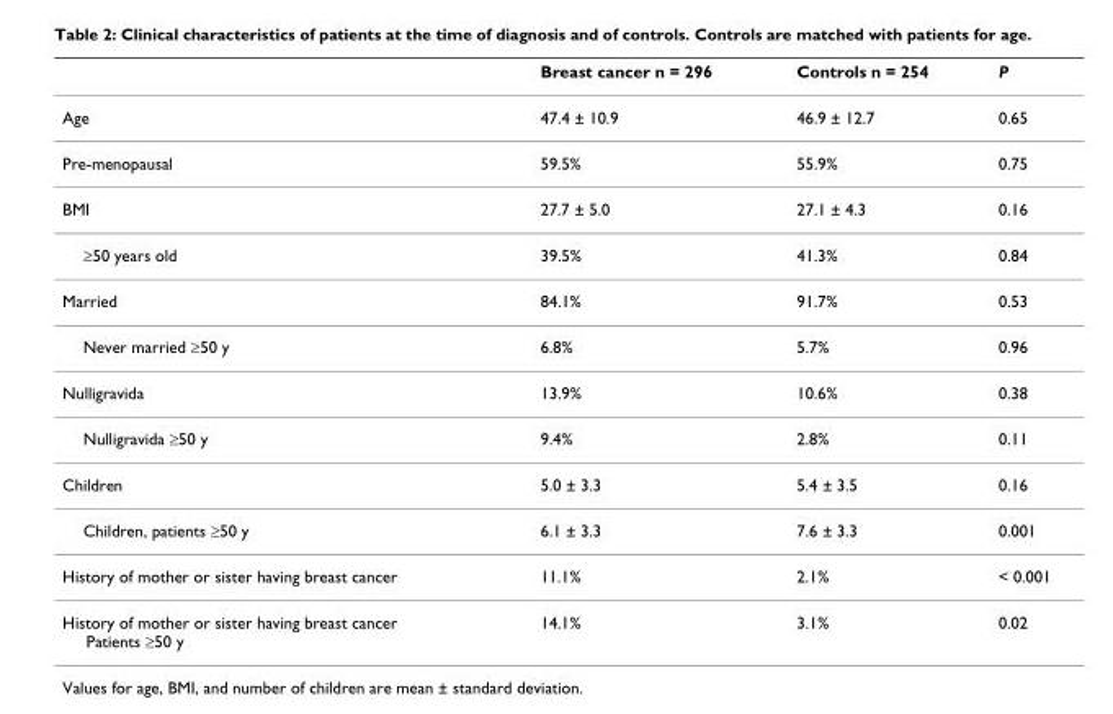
<table><thead><tr><td></td><td>Breast cancer n = 296</td><td>Controls n = 254</td><td>P</td></tr></thead><tbody><tr><td>Age</td><td>47.4 ± 10.9</td><td>46.9 ± 12.7</td><td>0.65</td></tr><tr><td>Pre-menopausal</td><td>59.5%</td><td>55.9%</td><td>0.75</td></tr><tr><td>BMI</td><td>27.7 ± 5.0</td><td>27.1 ± 4.3</td><td>0.16</td></tr><tr><td>≥50 years old</td><td>39.5%</td><td>41.3%</td><td>0.84</td></tr><tr><td>Married</td><td>84.1%</td><td>91.7%</td><td>0.53</td></tr><tr><td>Never married ≥50 y</td><td>6.8%</td><td>5.7%</td><td>0.96</td></tr><tr><td>Nulligravida</td><td>13.9%</td><td>10.6%</td><td>0.38</td></tr><tr><td>Nulligravida ≥50 y</td><td>9.4%</td><td>2.8%</td><td>0.11</td></tr><tr><td>Children</td><td>5.0 ± 3.3</td><td>5.4 ± 3.5</td><td>0.16</td></tr><tr><td>Children, patients ≥50 y</td><td>6.1 ± 3.3</td><td>7.6 ± 3.3</td><td>0.001</td></tr><tr><td>History of mother or sister having breast cancer</td><td>11.1%</td><td>2.1%</td><td>&lt; 0.001</td></tr><tr><td>History of mother or sister having breast cancer Patients ≥50 y</td><td>14.1%</td><td>3.1%</td><td>0.02</td></tr></tbody></table>